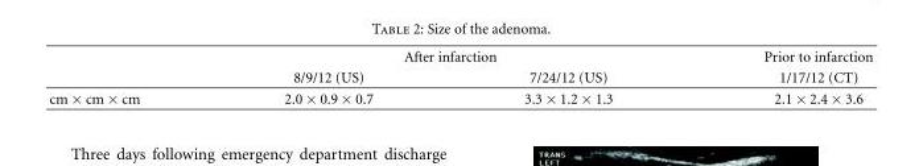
<table><thead><tr><td rowspan="2"></td><td colspan="2">After infarction</td><td rowspan="2">Prior to infarction 1/17/12 (CT)</td></tr><tr><td>8/9/12 (US)</td><td>7/24/12 (US)</td></tr></thead><tbody><tr><td>cm × cm × cm</td><td>2.0 × 0.9 × 0.7</td><td>3.3 × 1.2 × 1.3</td><td>2.1 × 2.4 × 3.6</td></tr></tbody></table>